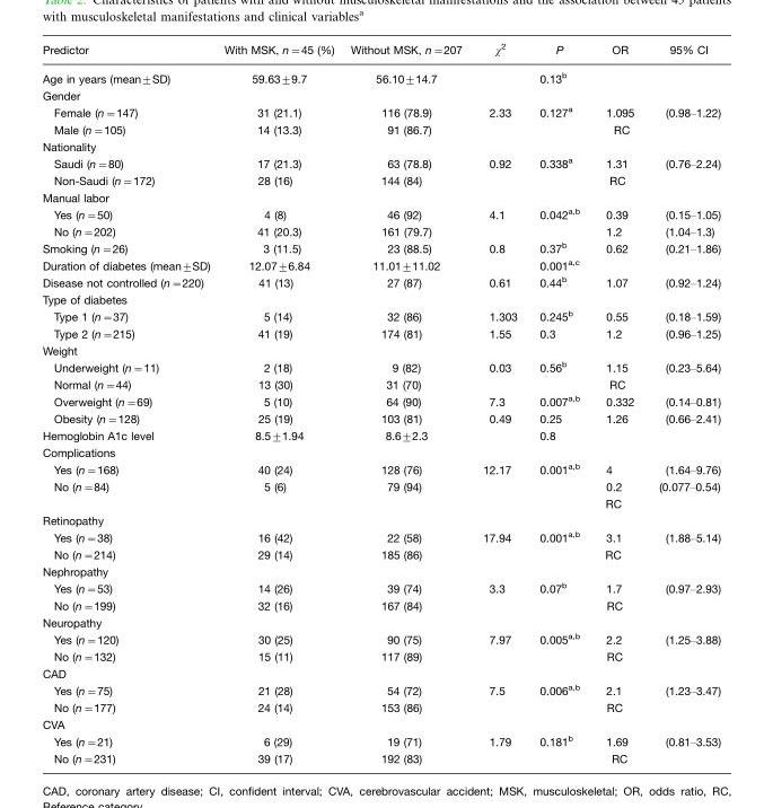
<table><thead><tr><td>Predictor</td><td>With MSK, n=45 (%)</td><td>Without MSK, n=207</td><td>χ<sup>2</sup></td><td>P</td><td>OR</td><td>95% CI</td></tr></thead><tbody><tr><td>Age in years (mean±SD)</td><td>59.63±9.7</td><td>56.10±14.7</td><td></td><td>0.13<sup>b</sup></td><td></td><td></td></tr><tr><td colspan="7">Gender</td></tr><tr><td>Female (n=147)</td><td>31 (21.1)</td><td>116 (78.9)</td><td>2.33</td><td>0.127<sup>a</sup></td><td>1.095</td><td>(0.98–1.22)</td></tr><tr><td>Male (n=105)</td><td>14 (13.3)</td><td>91 (86.7)</td><td></td><td></td><td>RC</td><td></td></tr><tr><td colspan="7">Nationality</td></tr><tr><td>Saudi (n=80)</td><td>17 (21.3)</td><td>63 (78.8)</td><td>0.92</td><td>0.338<sup>a</sup></td><td>1.31</td><td>(0.76–2.24)</td></tr><tr><td>Non-Saudi (n=172)</td><td>28 (16)</td><td>144 (84)</td><td></td><td></td><td>RC</td><td></td></tr><tr><td colspan="7">Manual labor</td></tr><tr><td>Yes (n=50)</td><td>4 (8)</td><td>46 (92)</td><td>4.1</td><td>0.042<sup>a,</sup>b</td><td>0.39</td><td>(0.15–1.05)</td></tr><tr><td>No (n=202)</td><td>41 (20.3)</td><td>161 (79.7)</td><td></td><td></td><td>1.2</td><td>(1.04–1.3)</td></tr><tr><td>Smoking (n=26)</td><td>3 (11.5)</td><td>23 (88.5)</td><td>0.8</td><td>0.37<sup>b</sup></td><td>0.62</td><td>(0.21–1.86)</td></tr><tr><td>Duration of diabetes (mean±SD)</td><td>12.07±6.84</td><td>11.01±11.02</td><td></td><td>0.001<sup>a,</sup>c</td><td></td><td></td></tr><tr><td>Disease not controlled (n=220)</td><td>41 (13)</td><td>27 (87)</td><td>0.61</td><td>0.44<sup>b</sup></td><td>1.07</td><td>(0.92–1.24)</td></tr><tr><td colspan="7">Type of diabetes</td></tr><tr><td>Type 1 (n=37)</td><td>5 (14)</td><td>32 (86)</td><td>1.303</td><td>0.245<sup>b</sup></td><td>0.55</td><td>(0.18–1.59)</td></tr><tr><td>Type 2 (n=215)</td><td>41 (19)</td><td>174 (81)</td><td>1.55</td><td>0.3</td><td>1.2</td><td>(0.96–1.25)</td></tr><tr><td colspan="7">Weight</td></tr><tr><td>Underweight (n=11)</td><td>2 (18)</td><td>9 (82)</td><td>0.03</td><td>0.56<sup>b</sup></td><td>1.15</td><td>(0.23–5.64)</td></tr><tr><td>Normal (n=44)</td><td>13 (30)</td><td>31 (70)</td><td></td><td></td><td>RC</td><td></td></tr><tr><td>Overweight (n=69)</td><td>5 (10)</td><td>64 (90)</td><td>7.3</td><td>0.007<sup>a,</sup>b</td><td>0.332</td><td>(0.14–0.81)</td></tr><tr><td>Obesity (n=128)</td><td>25 (19)</td><td>103 (81)</td><td>0.49</td><td>0.25</td><td>1.26</td><td>(0.66–2.41)</td></tr><tr><td>Hemoglobin A1c level</td><td>8.5±1.94</td><td>8.6±2.3</td><td></td><td>0.8</td><td></td><td></td></tr><tr><td colspan="7">Complications</td></tr><tr><td>Yes (n=168)</td><td>40 (24)</td><td>128 (76)</td><td>12.17</td><td>0.001<sup>a,</sup>b</td><td>4</td><td>(1.64–9.76)</td></tr><tr><td>No (n=84)</td><td>5 (6)</td><td>79 (94)</td><td></td><td></td><td>0.2 RC</td><td>(0.077–0.54)</td></tr><tr><td colspan="7">Retinopathy</td></tr><tr><td>Yes (n=38)</td><td>16 (42)</td><td>22 (58)</td><td>17.94</td><td>0.001<sup>a,</sup>b</td><td>3.1</td><td>(1.88–5.14)</td></tr><tr><td>No (n=214)</td><td>29 (14)</td><td>185 (86)</td><td></td><td></td><td>RC</td><td></td></tr><tr><td colspan="7">Nephropathy</td></tr><tr><td>Yes (n=53)</td><td>14 (26)</td><td>39 (74)</td><td>3.3</td><td>0.07<sup>b</sup></td><td>1.7</td><td>(0.97–2.93)</td></tr><tr><td>No (n=199)</td><td>32 (16)</td><td>167 (84)</td><td></td><td></td><td>RC</td><td></td></tr><tr><td colspan="7">Neuropathy</td></tr><tr><td>Yes (n=120)</td><td>30 (25)</td><td>90 (75)</td><td>7.97</td><td>0.005<sup>a,</sup>b</td><td>2.2</td><td>(1.25–3.88)</td></tr><tr><td>No (n=132)</td><td>15 (11)</td><td>117 (89)</td><td></td><td></td><td>RC</td><td></td></tr><tr><td colspan="7">CAD</td></tr><tr><td>Yes (n=75)</td><td>21 (28)</td><td>54 (72)</td><td>7.5</td><td>0.006<sup>a,</sup>b</td><td>2.1</td><td>(1.23–3.47)</td></tr><tr><td>No (n=177)</td><td>24 (14)</td><td>153 (86)</td><td></td><td></td><td>RC</td><td></td></tr><tr><td colspan="7">CVA</td></tr><tr><td>Yes (n=21)</td><td>6 (29)</td><td>19 (71)</td><td>1.79</td><td>0.181<sup>b</sup></td><td>1.69</td><td>(0.81–3.53)</td></tr><tr><td>No (n=231)</td><td>39 (17)</td><td>192 (83)</td><td></td><td></td><td>RC</td><td></td></tr></tbody></table>